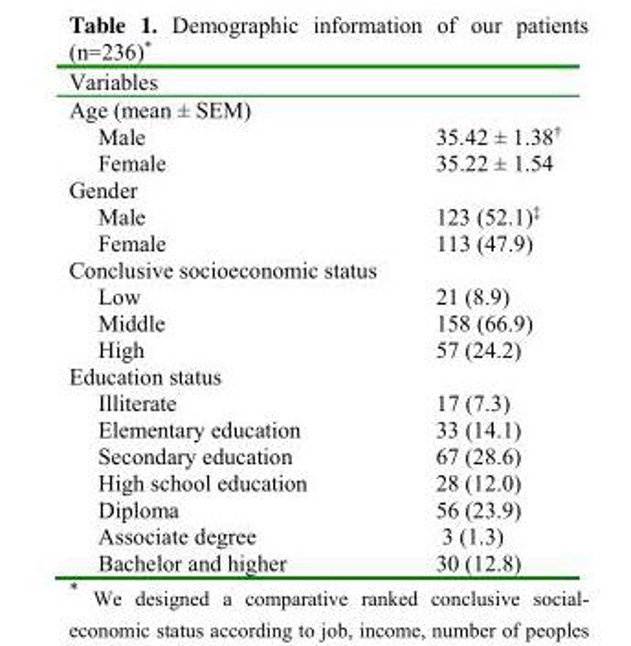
<table><thead><tr><td rowspan="2">Variables Age (mean ± SEM)</td><td rowspan="2"></td></tr><tr></tr></thead><tbody><tr><td>Male</td><td>35.42 ± 1.38†</td></tr><tr><td>Female</td><td>35.22 ± 1.54</td></tr><tr><td colspan="2">Gender</td></tr><tr><td>Male</td><td>123 (52.1)‡</td></tr><tr><td>Female</td><td>113 (47.9)</td></tr><tr><td colspan="2">Conclusive socioeconomic status</td></tr><tr><td>Low</td><td>21 (8.9)</td></tr><tr><td>Middle</td><td>158 (66.9)</td></tr><tr><td>High</td><td>57 (24.2)</td></tr><tr><td colspan="2">Education status</td></tr><tr><td>Illiterate</td><td>17 (7.3)</td></tr><tr><td>Elementary education</td><td>33 (14.1)</td></tr><tr><td>Secondary education</td><td>67 (28.6)</td></tr><tr><td>High school education</td><td>28 (12.0)</td></tr><tr><td>Diploma</td><td>56 (23.9)</td></tr><tr><td>Associate degree</td><td>3 (1.3)</td></tr><tr><td>Bachelor and higher</td><td>30 (12.8)</td></tr></tbody></table>